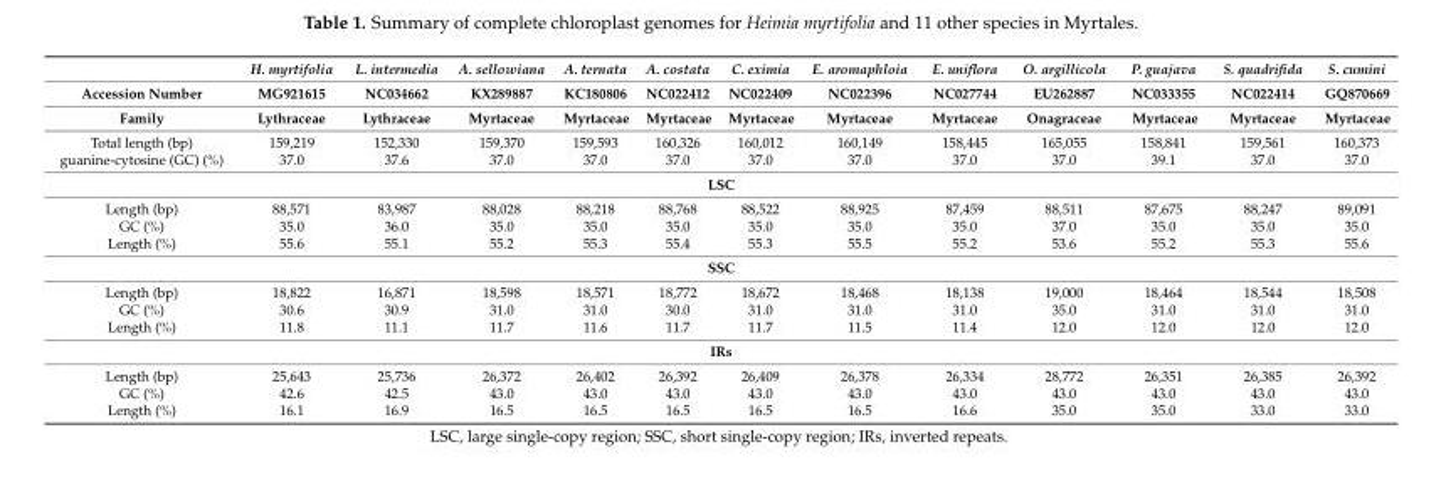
<table><thead><tr><td rowspan="3">Accession Number Family</td><td rowspan="3">H. myrtifolia MG921615 Lythraceae</td><td rowspan="3">L. intermedia NC034662 Lythraceae</td><td rowspan="3">A. sellowiana KX289887 Myrtaceae</td><td rowspan="3">A. ternata KC180806 Myrtaceae</td><td rowspan="3">A. costata NC022412 Myrtaceae</td><td rowspan="3">C. eximia NC022409 Myrtaceae</td><td rowspan="3">E. aromaphloia NC022396 Myrtaceae</td><td rowspan="3">E. uniflora NC027744 Myrtaceae</td><td rowspan="3">O. argillicola EU262887 Onagraceae</td><td rowspan="3">P. guajava NC033355 Myrtaceae</td><td rowspan="3">S. quadrifida NC022414 Myrtaceae</td><td rowspan="3">S. cumini GQ870669 Myrtaceae</td></tr><tr></tr><tr></tr></thead><tbody><tr><td>Total length (bp)</td><td>159,219</td><td>152,330</td><td>159,370</td><td>159,593</td><td>160,326</td><td>160,012</td><td>160,149</td><td>158,445</td><td>165,055</td><td>158,841</td><td>159,561</td><td>160,373</td></tr><tr><td>guanine-cytosine (GC) (%)</td><td>37.0</td><td>37.6</td><td>37.0</td><td>37.0</td><td>37.0</td><td>37.0</td><td>37.0</td><td>37.0</td><td>37.0</td><td>39.1</td><td>37.0</td><td>37.0</td></tr><tr><td colspan="13">LSC</td></tr><tr><td>Length (bp)</td><td>88,571</td><td>83,987</td><td>88,028</td><td>88,218</td><td>88,768</td><td>88,522</td><td>88,925</td><td>87,459</td><td>88,511</td><td>87,675</td><td>88,247</td><td>89,091</td></tr><tr><td>GC (%)</td><td>35.0</td><td>36.0</td><td>35.0</td><td>35.0</td><td>35.0</td><td>35.0</td><td>35.0</td><td>35.0</td><td>37.0</td><td>35.0</td><td>35.0</td><td>35.0</td></tr><tr><td>Length (%)</td><td>55.6</td><td>55.1</td><td>55.2</td><td>55.3</td><td>55.4</td><td>55.3</td><td>55.5</td><td>55.2</td><td>53.6</td><td>55.2</td><td>55.3</td><td>55.6</td></tr><tr><td colspan="13">SSC</td></tr><tr><td>Length (bp)</td><td>18,822</td><td>16,871</td><td>18,598</td><td>18,571</td><td>18,772</td><td>18,672</td><td>18,468</td><td>18,138</td><td>19,000</td><td>18,464</td><td>18,544</td><td>18,508</td></tr><tr><td>GC (%)</td><td>30.6</td><td>30.9</td><td>31.0</td><td>31.0</td><td>30.0</td><td>31.0</td><td>31.0</td><td>31.0</td><td>35.0</td><td>31.0</td><td>31.0</td><td>31.0</td></tr><tr><td>Length (%)</td><td>11.8</td><td>11.1</td><td>11.7</td><td>11.6</td><td>11.7</td><td>11.7</td><td>11.5</td><td>11.4</td><td>12.0</td><td>12.0</td><td>12.0</td><td>12.0</td></tr><tr><td colspan="13">IRs</td></tr><tr><td>Length (bp)</td><td>25,643</td><td>25,736</td><td>26,372</td><td>26,402</td><td>26,392</td><td>26,409</td><td>26,378</td><td>26,334</td><td>28,772</td><td>26,351</td><td>26,385</td><td>26,392</td></tr><tr><td>GC (%)</td><td>42.6</td><td>42.5</td><td>43.0</td><td>43.0</td><td>43.0</td><td>43.0</td><td>43.0</td><td>43.0</td><td>43.0</td><td>43.0</td><td>43.0</td><td>43.0</td></tr><tr><td>Length (%)</td><td>16.1</td><td>16.9</td><td>16.5</td><td>16.5</td><td>16.5</td><td>16.5</td><td>16.5</td><td>16.6</td><td>35.0</td><td>35.0</td><td>33.0</td><td>33.0</td></tr></tbody></table>